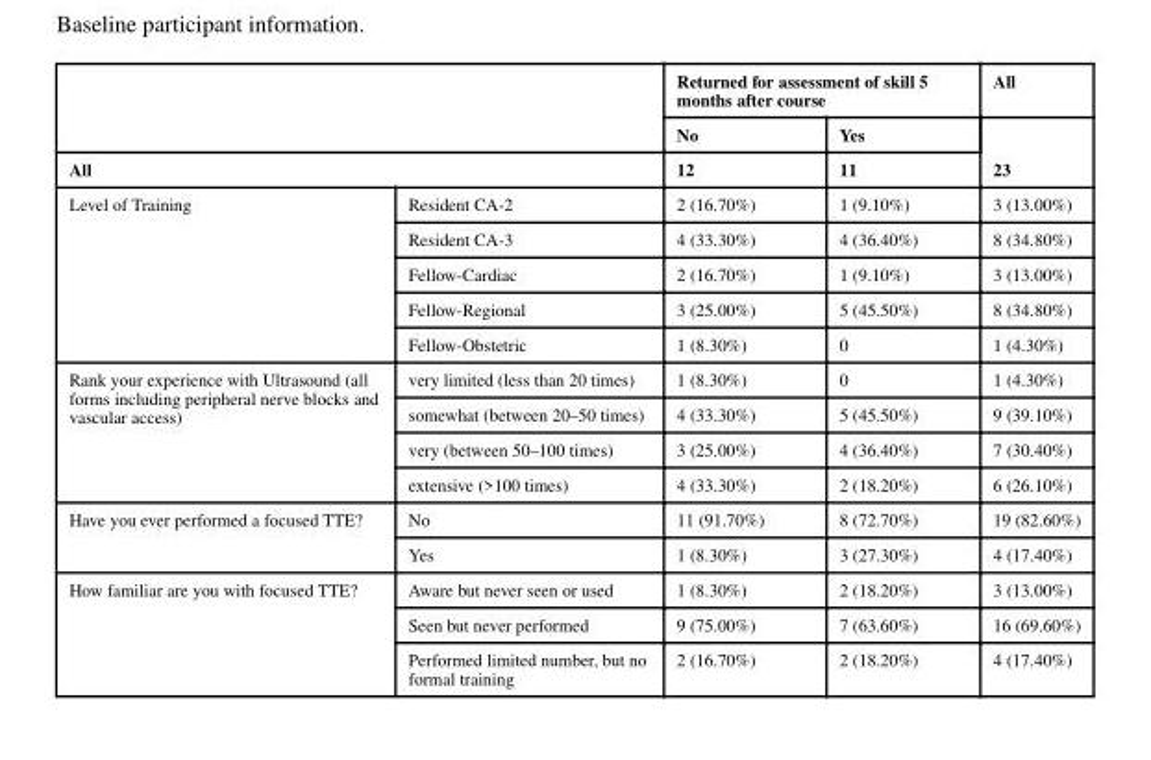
<table><thead><tr><td rowspan="2"></td><td rowspan="2"></td><td colspan="2">Returned for assessment of skill 5 months after course</td><td rowspan="3">All 23</td></tr><tr><td rowspan="2">No 12</td><td rowspan="2">Yes 11</td></tr><tr><td colspan="2">All</td></tr></thead><tbody><tr><td rowspan="5">Level of Training</td><td>Resident CA-2</td><td>2 (16.70%)</td><td>1 (9.10%)</td><td>3 (13.00%)</td></tr><tr><td>Resident CA-3</td><td>4 (33.30%)</td><td>4 (36.40%)</td><td>8 (34.80%)</td></tr><tr><td>Fellow-Cardiac</td><td>2 (16.70%)</td><td>1 (9.10%)</td><td>3 (13.00%)</td></tr><tr><td>Fellow-Regional</td><td>3 (25.00%)</td><td>5 (45.50%)</td><td>8 (34.80%)</td></tr><tr><td>Fellow-Obstetric</td><td>1 (8.30%)</td><td>0</td><td>1 (4.30%)</td></tr><tr><td rowspan="4">Rank your experience with Ultrasound (all forms including peripheral nerve blocks and vascular access)</td><td>very limited (less than 20 times)</td><td>1 (8.30%)</td><td>0</td><td>1 (4.30%)</td></tr><tr><td>somewhat (between 20–50 times)</td><td>4 (33.30%)</td><td>5 (45.50%)</td><td>9 (39.10%)</td></tr><tr><td>very (between 50–100 times)</td><td>3 (25.00%)</td><td>4 (36.40%)</td><td>7 (30.40%)</td></tr><tr><td>extensive (&gt;100 times)</td><td>4 (33.30%)</td><td>2 (18.20%)</td><td>6 (26.10%)</td></tr><tr><td rowspan="2">Have you ever performed a focused TTE?</td><td>No</td><td>11 (91.70%)</td><td>8 (72.70%)</td><td>19 (82.60%)</td></tr><tr><td>Yes</td><td>1 (8.30%)</td><td>3 (27.30%)</td><td>4 (17.40%)</td></tr><tr><td rowspan="3">How familiar are you with focused TTE?</td><td>Aware but never seen or used</td><td>1 (8.30%)</td><td>2 (18.20%)</td><td>3 (13.00%)</td></tr><tr><td>Seen but never performed</td><td>9 (75.00%)</td><td>7 (63.60%)</td><td>16 (69.60%)</td></tr><tr><td>Performed limited number, but no formal training</td><td>2 (16.70%)</td><td>2 (18.20%)</td><td>4 (17.40%)</td></tr></tbody></table>